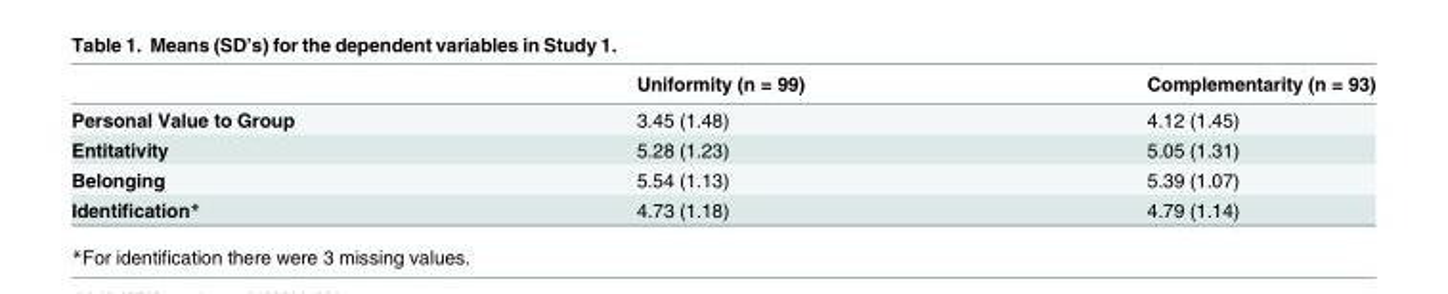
<table><thead><tr><td></td><td>Uniformity (n = 99)</td><td>Complementarity (n = 93)</td></tr></thead><tbody><tr><td>Personal Value to Group</td><td>3.45 (1.48)</td><td>4.12 (1.45)</td></tr><tr><td>Entitativity</td><td>5.28 (1.23)</td><td>5.05 (1.31)</td></tr><tr><td>Belonging</td><td>5.54 (1.13)</td><td>5.39 (1.07)</td></tr><tr><td>Identification*</td><td>4.73 (1.18)</td><td>4.79 (1.14)</td></tr></tbody></table>